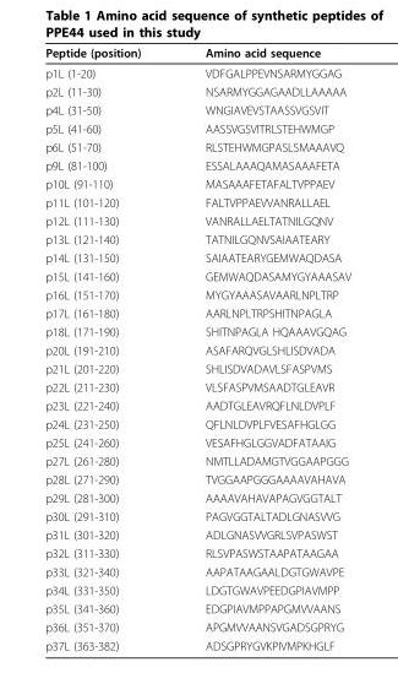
<table><thead><tr><td>Peptide (position)</td><td>Amino acid sequence</td></tr></thead><tbody><tr><td>p1L (1-20)</td><td>VDFGALPPEVNSARMYGGAG</td></tr><tr><td>p2L (11-30)</td><td>NSARMYGGAGAADLLAAAAA</td></tr><tr><td>p4L (31-50)</td><td>WNGIAVEVSTAASSVGSVIT</td></tr><tr><td>p5L (41-60)</td><td>AASSVGSVITRLSTEHWMGP</td></tr><tr><td>p6L (51-70)</td><td>RLSTEHWMGPASLSMAAAVQ</td></tr><tr><td>p9L (81-100)</td><td>ESSALAAAQAMASAAAFETA</td></tr><tr><td>p10L (91-110)</td><td>MASAAAFETAFALTVPPAEV</td></tr><tr><td>p11L (101-120)</td><td>FALTVPPAEVVANRALLAEL</td></tr><tr><td>p12L (111-130)</td><td>VANRALLAELTATNILGQNV</td></tr><tr><td>p13L (121-140)</td><td>TATNILGQNVSAIAATEARY</td></tr><tr><td>p14L (131-150)</td><td>SAIAATEARYGEMWAQDASA</td></tr><tr><td>p15L (141-160)</td><td>GEMWAQDASAMYGYAAASAV</td></tr><tr><td>p16L (151-170)</td><td>MYGYAAASAVAARLNPLTRP</td></tr><tr><td>p17L (161-180)</td><td>AARLNPLTRPSHITNPAGLA</td></tr><tr><td>p18L (171-190)</td><td>SHITNPAGLA HQAAAVGQAG</td></tr><tr><td>p20L (191-210)</td><td>ASAFARQVGLSHLISDVADA</td></tr><tr><td>p21L (201-220)</td><td>SHLISDVADAVLSFASPVMS</td></tr><tr><td>p22L (211-230)</td><td>VLSFASPVMSAADTGLEAVR</td></tr><tr><td>p23L (221-240)</td><td>AADTGLEAVRQFLNLDVPLF</td></tr><tr><td>p24L (231-250)</td><td>QFLNLDVPLFVESAFHGLGG</td></tr><tr><td>p25L (241-260)</td><td>VESAFHGLGGVADFATAAIG</td></tr><tr><td>p27L (261-280)</td><td>NMTLLADAMGTVGGAAPGGG</td></tr><tr><td>p28L (271-290)</td><td>TVGGAAPGGGAAAAVAHAVA</td></tr><tr><td>p29L (281-300)</td><td>AAAAVAHAVAPAGVGGTALT</td></tr><tr><td>p30L (291-310)</td><td>PAGVGGTALTADLGNASVVG</td></tr><tr><td>p31L (301-320)</td><td>ADLGNASVVGRLSVPASWST</td></tr><tr><td>p32L (311-330)</td><td>RLSVPASWSTAAPATAAGAA</td></tr><tr><td>p33L (321-340)</td><td>AAPATAAGAALDGTGWAVPE</td></tr><tr><td>p34L (331-350)</td><td>LDGTGWAVPEEDGPIAVMPP</td></tr><tr><td>p35L (341-360)</td><td>EDGPIAVMPPAPGMVVAANS</td></tr><tr><td>p36L (351-370)</td><td>APGMVVAANSVGADSGPRYG</td></tr><tr><td>p37L (363-382)</td><td>ADSGPRYGVKPIVMPKHGLF</td></tr></tbody></table>